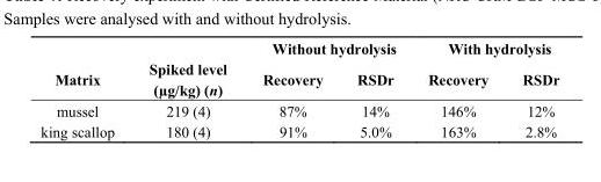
<table><thead><tr><td rowspan="2">Matrix</td><td rowspan="2">Spiked level (µg/kg) (n)</td><td colspan="2">Without hydrolysis</td><td colspan="2">With hydrolysis</td></tr><tr><td>Recovery</td><td>RSDr</td><td>Recovery</td><td>RSDr</td></tr></thead><tbody><tr><td>mussel</td><td>219 (4)</td><td>87%</td><td>14%</td><td>146%</td><td>12%</td></tr><tr><td>king scallop</td><td>180 (4)</td><td>91%</td><td>5.0%</td><td>163%</td><td>2.8%</td></tr></tbody></table>